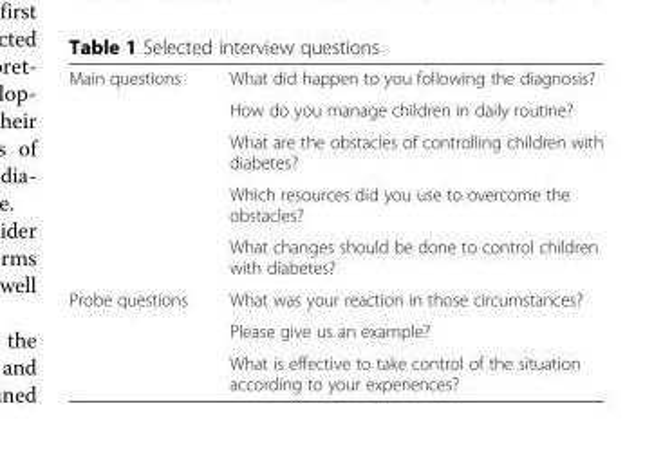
<table><tbody><tr><td rowspan="5">Main questions</td><td>What did happen to you following the diagnosis?</td></tr><tr><td>How do you manage children in daily routine?</td></tr><tr><td>What are the obstacles of controlling children with diabetes?</td></tr><tr><td>Which resources did you use to overcome the obstacles?</td></tr><tr><td>What changes should be done to control children with diabetes?</td></tr><tr><td rowspan="3">Probe questions</td><td>What was your reaction in those circumstances?</td></tr><tr><td>Please give us an example?</td></tr><tr><td>What is effective to take control of the situation according to your experiences?</td></tr></tbody></table>